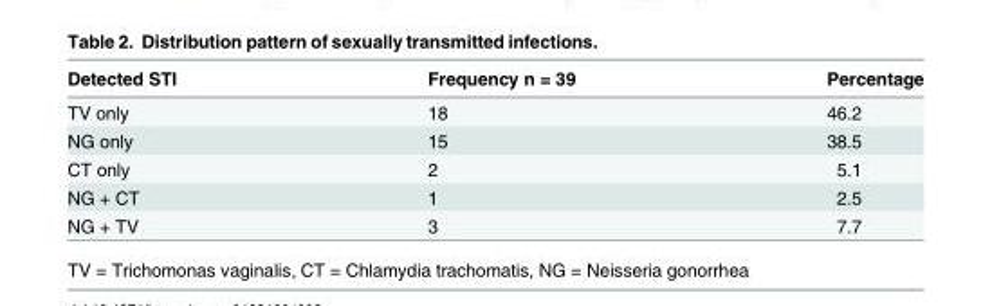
<table><thead><tr><td>Detected STI</td><td>Frequency n = 39</td><td>Percentage</td></tr></thead><tbody><tr><td>TV only</td><td>18</td><td>46.2</td></tr><tr><td>NG only</td><td>15</td><td>38.5</td></tr><tr><td>CT only</td><td>2</td><td>5.1</td></tr><tr><td>NG + CT</td><td>1</td><td>2.5</td></tr><tr><td>NG + TV</td><td>3</td><td>7.7</td></tr></tbody></table>